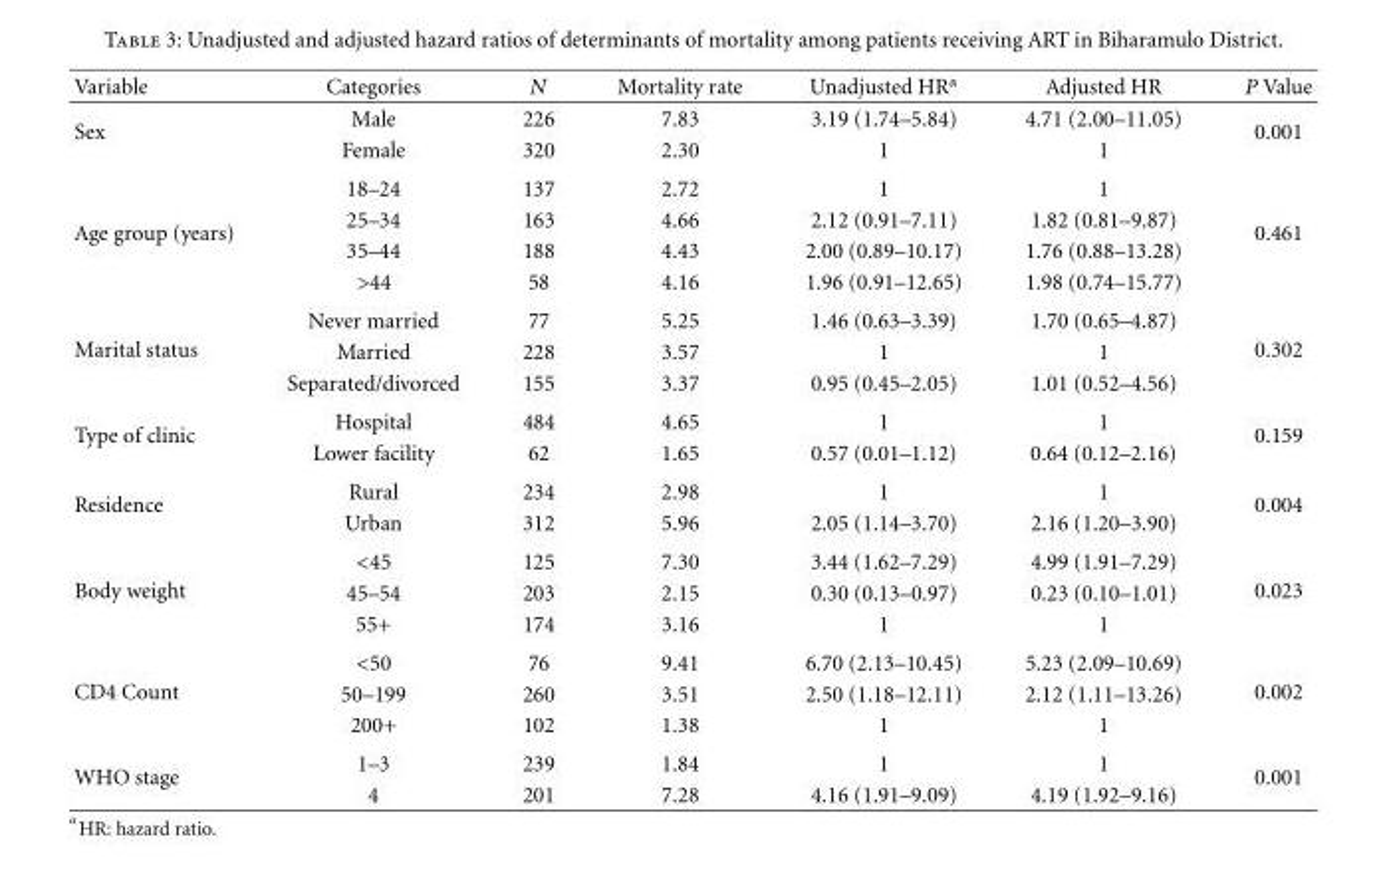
<table><thead><tr><td>Variable</td><td>Categories</td><td>N</td><td>Mortality rate</td><td>Unadjusted HR<sup>α</sup></td><td>Adjusted HR</td><td>P Value</td></tr></thead><tbody><tr><td rowspan="2">Sex</td><td>Male</td><td>226</td><td>7.83</td><td>3.19 (1.74–5.84)</td><td>4.71 (2.00–11.05)</td><td rowspan="2">0.001</td></tr><tr><td>Female</td><td>320</td><td>2.30</td><td>1</td><td>1</td></tr><tr><td rowspan="4">Age group (years)</td><td>18–24</td><td>137</td><td>2.72</td><td>1</td><td>1</td><td rowspan="4">0.461</td></tr><tr><td>25–34</td><td>163</td><td>4.66</td><td>2.12 (0.91–7.11)</td><td>1.82 (0.81–9.87)</td></tr><tr><td>35–44</td><td>188</td><td>4.43</td><td>2.00 (0.89–10.17)</td><td>1.76 (0.88–13.28)</td></tr><tr><td>&gt;44</td><td>58</td><td>4.16</td><td>1.96 (0.91–12.65)</td><td>1.98 (0.74–15.77)</td></tr><tr><td rowspan="3">Marital status</td><td>Never married</td><td>77</td><td>5.25</td><td>1.46 (0.63–3.39)</td><td>1.70 (0.65–4.87)</td><td rowspan="3">0.302</td></tr><tr><td>Married</td><td>228</td><td>3.57</td><td>1</td><td>1</td></tr><tr><td>Separated/divorced</td><td>155</td><td>3.37</td><td>0.95 (0.45–2.05)</td><td>1.01 (0.52–4.56)</td></tr><tr><td rowspan="2">Type of clinic</td><td>Hospital</td><td>484</td><td>4.65</td><td>1</td><td>1</td><td rowspan="2">0.159</td></tr><tr><td>Lower facility</td><td>62</td><td>1.65</td><td>0.57 (0.01–1.12)</td><td>0.64 (0.12–2.16)</td></tr><tr><td rowspan="2">Residence</td><td>Rural</td><td>234</td><td>2.98</td><td>1</td><td>1</td><td rowspan="2">0.004</td></tr><tr><td>Urban</td><td>312</td><td>5.96</td><td>2.05 (1.14–3.70)</td><td>2.16 (1.20–3.90)</td></tr><tr><td rowspan="3">Body weight</td><td>&lt;45</td><td>125</td><td>7.30</td><td>3.44 (1.62–7.29)</td><td>4.99 (1.91–7.29)</td><td rowspan="3">0.023</td></tr><tr><td>45–54</td><td>203</td><td>2.15</td><td>0.30 (0.13–0.97)</td><td>0.23 (0.10–1.01)</td></tr><tr><td>55+</td><td>174</td><td>3.16</td><td>1</td><td>1</td></tr><tr><td rowspan="3">CD4 Count</td><td>&lt;50</td><td>76</td><td>9.41</td><td>6.70 (2.13–10.45)</td><td>5.23 (2.09–10.69)</td><td rowspan="3">0.002</td></tr><tr><td>50–199</td><td>260</td><td>3.51</td><td>2.50 (1.18–12.11)</td><td>2.12 (1.11–13.26)</td></tr><tr><td>200+</td><td>102</td><td>1.38</td><td>1</td><td>1</td></tr><tr><td rowspan="2">WHO stage</td><td>1–3</td><td>239</td><td>1.84</td><td>1</td><td>1</td><td rowspan="2">0.001</td></tr><tr><td>4</td><td>201</td><td>7.28</td><td>4.16 (1.91–9.09)</td><td>4.19 (1.92–9.16)</td></tr></tbody></table>